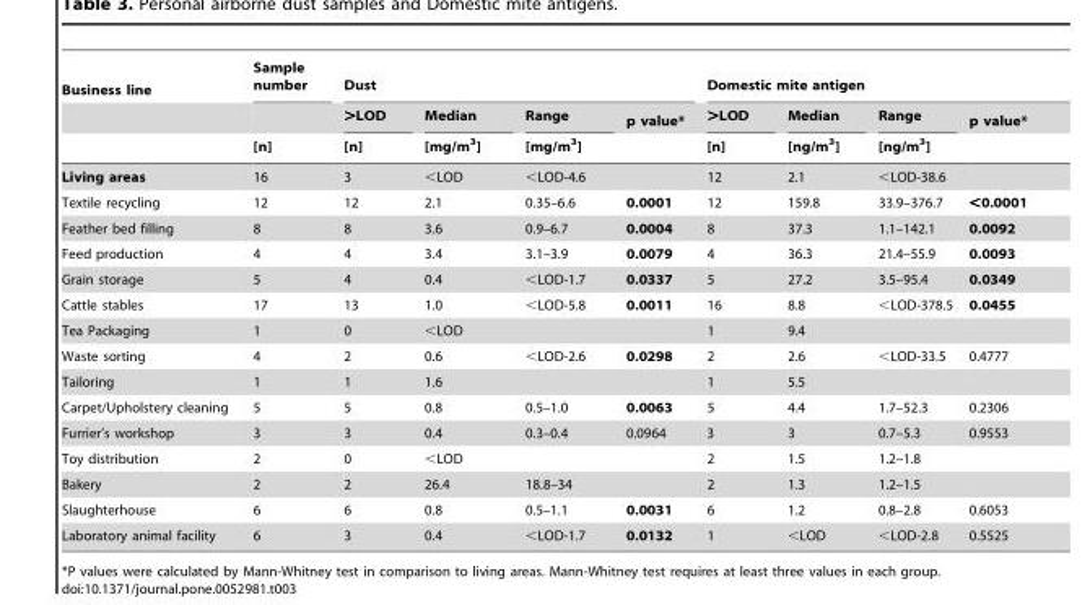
<table><thead><tr><td rowspan="3">Business line</td><td rowspan="3">Sample number [n]</td><td colspan="4">Dust</td><td colspan="4">Domestic mite antigen</td></tr><tr><td rowspan="2">&gt;LOD [n]</td><td rowspan="2">Median [mg/m<sup>3</sup>]</td><td rowspan="2">Range [mg/m<sup>3</sup>]</td><td rowspan="2">p value*</td><td rowspan="2">&gt;LOD [n]</td><td rowspan="2">Median [ng/m<sup>3</sup>]</td><td rowspan="2">Range [ng/m<sup>3</sup>]</td><td rowspan="2">p value*</td></tr><tr></tr></thead><tbody><tr><td>Living areas</td><td>16</td><td>3</td><td>&lt;LOD</td><td>&lt;LOD-4.6</td><td></td><td>12</td><td>2.1</td><td>&lt;LOD-38.6</td><td></td></tr><tr><td>Textile recycling</td><td>12</td><td>12</td><td>2.1</td><td>0.35–6.6</td><td>0.0001</td><td>12</td><td>159.8</td><td>33.9–376.7</td><td>&lt;0.0001</td></tr><tr><td>Feather bed filling</td><td>8</td><td>8</td><td>3.6</td><td>0.9–6.7</td><td>0.0004</td><td>8</td><td>37.3</td><td>1.1–142.1</td><td>0.0092</td></tr><tr><td>Feed production</td><td>4</td><td>4</td><td>3.4</td><td>3.1–3.9</td><td>0.0079</td><td>4</td><td>36.3</td><td>21.4–55.9</td><td>0.0093</td></tr><tr><td>Grain storage</td><td>5</td><td>4</td><td>0.4</td><td>&lt;LOD-1.7</td><td>0.0337</td><td>5</td><td>27.2</td><td>3.5–95.4</td><td>0.0349</td></tr><tr><td>Cattle stables</td><td>17</td><td>13</td><td>1.0</td><td>&lt;LOD-5.8</td><td>0.0011</td><td>16</td><td>8.8</td><td>&lt;LOD-378.5</td><td>0.0455</td></tr><tr><td>Tea Packaging</td><td>1</td><td>0</td><td>&lt;LOD</td><td></td><td></td><td>1</td><td>9.4</td><td></td><td></td></tr><tr><td>Waste sorting</td><td>4</td><td>2</td><td>0.6</td><td>&lt;LOD-2.6</td><td>0.0298</td><td>2</td><td>2.6</td><td>&lt;LOD-33.5</td><td>0.4777</td></tr><tr><td>Tailoring</td><td>1</td><td>1</td><td>1.6</td><td></td><td></td><td>1</td><td>5.5</td><td></td><td></td></tr><tr><td>Carpet/Upholstery cleaning</td><td>5</td><td>5</td><td>0.8</td><td>0.5–1.0</td><td>0.0063</td><td>5</td><td>4.4</td><td>1.7–52.3</td><td>0.2306</td></tr><tr><td>Furrier’s workshop</td><td>3</td><td>3</td><td>0.4</td><td>0.3–0.4</td><td>0.0964</td><td>3</td><td>3</td><td>0.7–5.3</td><td>0.9553</td></tr><tr><td>Toy distribution</td><td>2</td><td>0</td><td>&lt;LOD</td><td></td><td></td><td>2</td><td>1.5</td><td>1.2–1.8</td><td></td></tr><tr><td>Bakery</td><td>2</td><td>2</td><td>26.4</td><td>18.8–34</td><td></td><td>2</td><td>1.3</td><td>1.2–1.5</td><td></td></tr><tr><td>Slaughterhouse</td><td>6</td><td>6</td><td>0.8</td><td>0.5–1.1</td><td>0.0031</td><td>6</td><td>1.2</td><td>0.8–2.8</td><td>0.6053</td></tr><tr><td>Laboratory animal facility</td><td>6</td><td>3</td><td>0.4</td><td>&lt;LOD-1.7</td><td>0.0132</td><td>1</td><td>&lt;LOD</td><td>&lt;LOD-2.8</td><td>0.5525</td></tr></tbody></table>